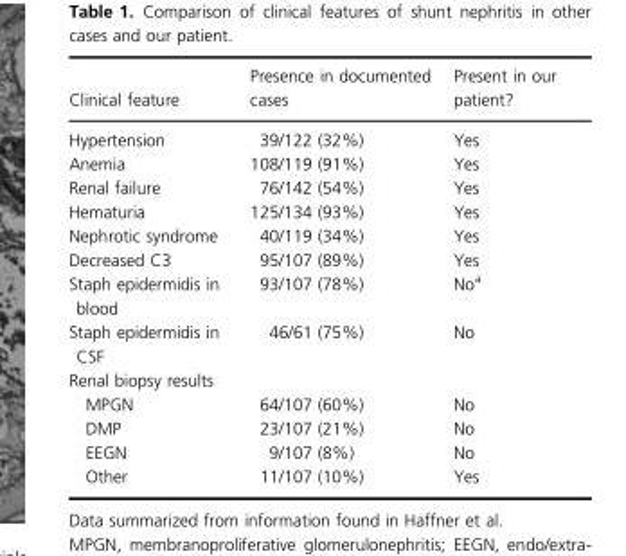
<table><thead><tr><td>Clinical feature</td><td>Presence in documented cases</td><td>Present in our patient?</td></tr></thead><tbody><tr><td>Hypertension</td><td>39/122 (32%)</td><td>Yes</td></tr><tr><td>Anemia</td><td>108/119 (91%)</td><td>Yes</td></tr><tr><td>Renal failure</td><td>76/142 (54%)</td><td>Yes</td></tr><tr><td>Hematuria</td><td>125/134 (93%)</td><td>Yes</td></tr><tr><td>Nephrotic syndrome</td><td>40/119 (34%)</td><td>Yes</td></tr><tr><td>Decreased C3</td><td>95/107 (89%)</td><td>Yes</td></tr><tr><td>Staph epidermidis in blood</td><td>93/107 (78%)</td><td>No<sup>a</sup></td></tr><tr><td>Staph epidermidis in CSF</td><td>46/61 (75%)</td><td>No</td></tr><tr><td colspan="3">Renal biopsy results</td></tr><tr><td>MPGN</td><td>64/107 (60%)</td><td>No</td></tr><tr><td>DMP</td><td>23/107 (21%)</td><td>No</td></tr><tr><td>EEGN</td><td>9/107 (8%)</td><td>No</td></tr><tr><td>Other</td><td>11/107 (10%)</td><td>Yes</td></tr></tbody></table>